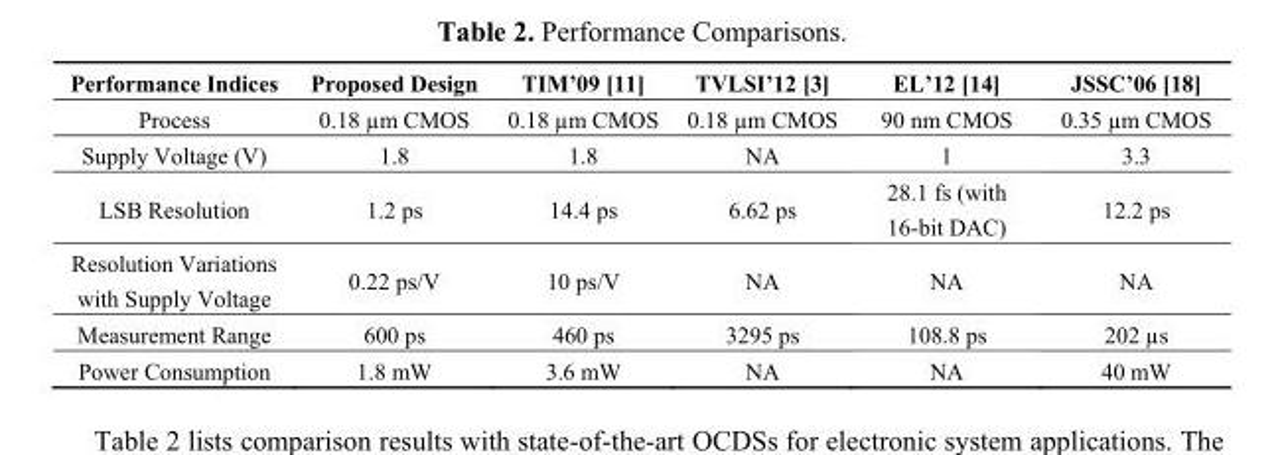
<table><thead><tr><td>Performance Indices</td><td>Proposed Design</td><td>TIMʼ09 [11]</td><td>TVLSIʼ12 [3]</td><td>ELʼ12 [14]</td><td>JSSCʼ06 [18]</td></tr></thead><tbody><tr><td>Process</td><td>0.18 µm CMOS</td><td>0.18 µm CMOS</td><td>0.18 µm CMOS</td><td>90 nm CMOS</td><td>0.35 µm CMOS</td></tr><tr><td>Supply Voltage (V)</td><td>1.8</td><td>1.8</td><td>NA</td><td>1</td><td>3.3</td></tr><tr><td>LSB Resolution</td><td>1.2 ps</td><td>14.4 ps</td><td>6.62 ps</td><td>28.1 fs (with 16-bit DAC)</td><td>12.2 ps</td></tr><tr><td>Resolution Variations with Supply Voltage</td><td>0.22 ps/V</td><td>10 ps/V</td><td>NA</td><td>NA</td><td>NA</td></tr><tr><td>Measurement Range</td><td>600 ps</td><td>460 ps</td><td>3295 ps</td><td>108.8 ps</td><td>202 µs</td></tr><tr><td>Power Consumption</td><td>1.8 mW</td><td>3.6 mW</td><td>NA</td><td>NA</td><td>40 mW</td></tr></tbody></table>